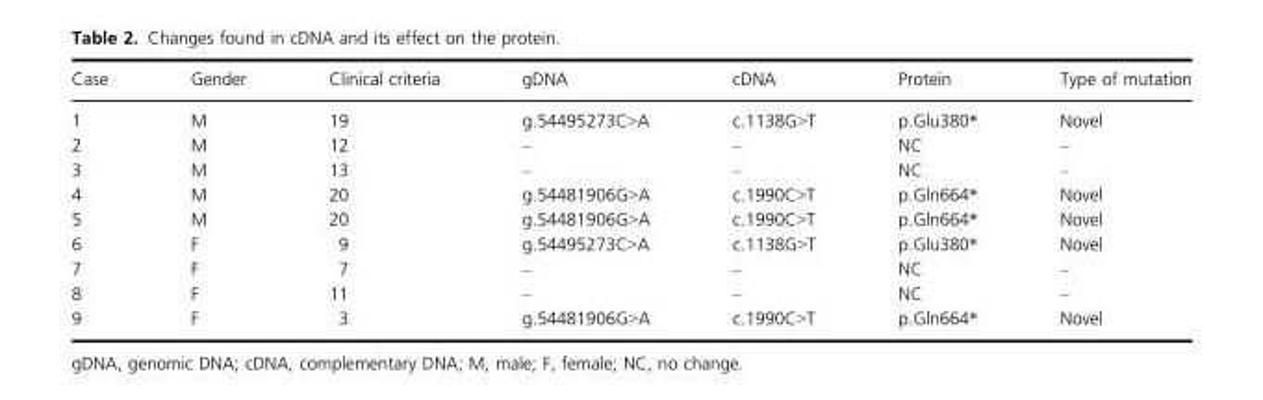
<table><thead><tr><td>Case</td><td>Gender</td><td>Clinical criteria</td><td>gDNA</td><td>cDNA</td><td>Protein</td><td>Type of mutation</td></tr></thead><tbody><tr><td>1</td><td>M</td><td>19</td><td>g.54495273C&gt;A</td><td>c.1138G&gt;T</td><td>p.Glu380*</td><td>Novel</td></tr><tr><td>2</td><td>M</td><td>12</td><td>–</td><td>–</td><td>NC</td><td>–</td></tr><tr><td>3</td><td>M</td><td>13</td><td>–</td><td>–</td><td>NC</td><td>–</td></tr><tr><td>4</td><td>M</td><td>20</td><td>g.54481906G&gt;A</td><td>c.1990C&gt;T</td><td>p.Gln664*</td><td>Novel</td></tr><tr><td>5</td><td>M</td><td>20</td><td>g.54481906G&gt;A</td><td>c.1990C&gt;T</td><td>p.Gln664*</td><td>Novel</td></tr><tr><td>6</td><td>F</td><td>9</td><td>g.54495273C&gt;A</td><td>c.1138G&gt;T</td><td>p.Glu380*</td><td>Novel</td></tr><tr><td>7</td><td>F</td><td>7</td><td>–</td><td>–</td><td>NC</td><td>–</td></tr><tr><td>8</td><td>F</td><td>11</td><td>–</td><td>–</td><td>NC</td><td>–</td></tr><tr><td>9</td><td>F</td><td>3</td><td>g.54481906G&gt;A</td><td>c.1990C&gt;T</td><td>p.Gln664*</td><td>Novel</td></tr></tbody></table>